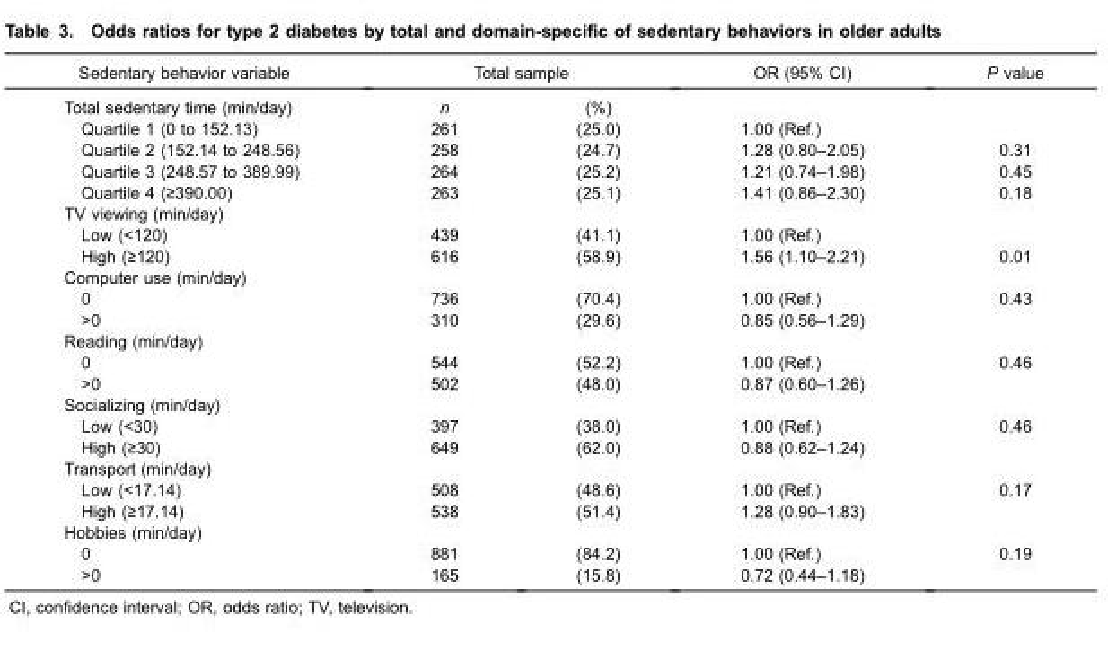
<table><thead><tr><td rowspan="2">Sedentary behavior variable Total sedentary time (min/day)</td><td colspan="2">Total sample</td><td rowspan="2">OR (95% CI)</td><td rowspan="2">P value</td></tr><tr><td>n</td><td>(%)</td></tr></thead><tbody><tr><td>Quartile 1 (0 to 152.13)</td><td>261</td><td>(25.0)</td><td>1.00 (Ref.)</td><td></td></tr><tr><td>Quartile 2 (152.14 to 248.56)</td><td>258</td><td>(24.7)</td><td>1.28 (0.80–2.05)</td><td>0.31</td></tr><tr><td>Quartile 3 (248.57 to 389.99)</td><td>264</td><td>(25.2)</td><td>1.21 (0.74–1.98)</td><td>0.45</td></tr><tr><td>Quartile 4 (≥390.00)</td><td>263</td><td>(25.1)</td><td>1.41 (0.86–2.30)</td><td>0.18</td></tr><tr><td colspan="5">TV viewing (min/day)</td></tr><tr><td>Low (&lt;120)</td><td>439</td><td>(41.1)</td><td>1.00 (Ref.)</td><td></td></tr><tr><td>High (≥120)</td><td>616</td><td>(58.9)</td><td>1.56 (1.10–2.21)</td><td>0.01</td></tr><tr><td colspan="5">Computer use (min/day)</td></tr><tr><td>0</td><td>736</td><td>(70.4)</td><td>1.00 (Ref.)</td><td>0.43</td></tr><tr><td>&gt;0</td><td>310</td><td>(29.6)</td><td>0.85 (0.56–1.29)</td><td></td></tr><tr><td colspan="5">Reading (min/day)</td></tr><tr><td>0</td><td>544</td><td>(52.2)</td><td>1.00 (Ref.)</td><td>0.46</td></tr><tr><td>&gt;0</td><td>502</td><td>(48.0)</td><td>0.87 (0.60–1.26)</td><td></td></tr><tr><td colspan="5">Socializing (min/day)</td></tr><tr><td>Low (&lt;30)</td><td>397</td><td>(38.0)</td><td>1.00 (Ref.)</td><td>0.46</td></tr><tr><td>High (≥30)</td><td>649</td><td>(62.0)</td><td>0.88 (0.62–1.24)</td><td></td></tr><tr><td colspan="5">Transport (min/day)</td></tr><tr><td>Low (&lt;17.14)</td><td>508</td><td>(48.6)</td><td>1.00 (Ref.)</td><td>0.17</td></tr><tr><td>High (≥17.14)</td><td>538</td><td>(51.4)</td><td>1.28 (0.90–1.83)</td><td></td></tr><tr><td colspan="5">Hobbies (min/day)</td></tr><tr><td>0</td><td>881</td><td>(84.2)</td><td>1.00 (Ref.)</td><td>0.19</td></tr><tr><td>&gt;0</td><td>165</td><td>(15.8)</td><td>0.72 (0.44–1.18)</td><td></td></tr></tbody></table>